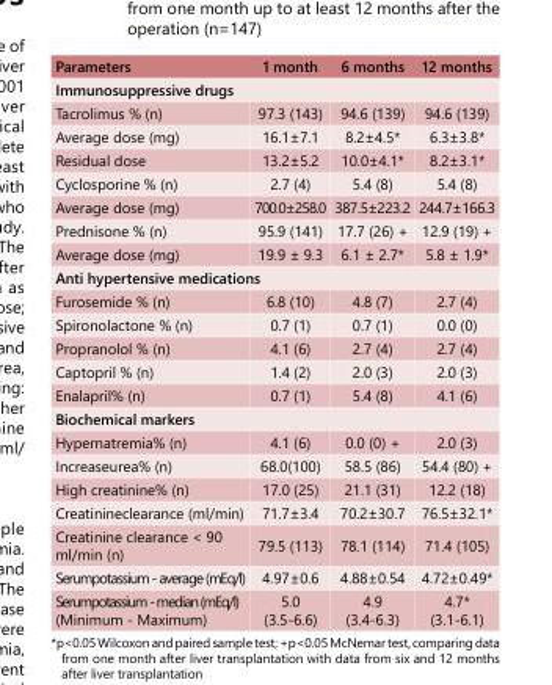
<table><tbody><tr><td>Parameters</td><td>1 month</td><td>6 months</td><td>12 months</td></tr><tr><td colspan="4">Immunosuppressive drugs</td></tr><tr><td>Tacrolimus % (n)</td><td>97.3 (143)</td><td>94.6 (139)</td><td>94.6 (139)</td></tr><tr><td>Average dose (mg)</td><td>16.1±7.1</td><td>8.2±4.5*</td><td>6.3±3.8*</td></tr><tr><td>Residual dose</td><td>13.2±5.2</td><td>10.0±4.1*</td><td>8.2±3.1*</td></tr><tr><td>Cyclosporine % (n)</td><td>2.7 (4)</td><td>5.4 (8)</td><td>5.4 (8)</td></tr><tr><td>Average dose (mg)</td><td>700.0±258.0</td><td>387.5±223.2</td><td>244.7±166.3</td></tr><tr><td>Prednisone % (n)</td><td>95.9 (141)</td><td>17.7 (26) +</td><td>12.9 (19) +</td></tr><tr><td>Average dose (mg)</td><td>19.9 ± 9.3</td><td>6.1 ± 2.7*</td><td>5.8 ± 1.9*</td></tr><tr><td colspan="4">Anti hypertensive medications</td></tr><tr><td>Furosemide % (n)</td><td>6.8 (10)</td><td>4.8 (7)</td><td>2.7 (4)</td></tr><tr><td>Spironolactone % (n)</td><td>0.7 (1)</td><td>0.7 (1)</td><td>0.0 (0)</td></tr><tr><td>Propranolol % (n)</td><td>4.1 (6)</td><td>2.7 (4)</td><td>2.7 (4)</td></tr><tr><td>Captopril % (n)</td><td>1.4 (2)</td><td>2.0 (3)</td><td>2.0 (3)</td></tr><tr><td>Enalapril% (n)</td><td>0.7 (1)</td><td>5.4 (8)</td><td>4.1 (6)</td></tr><tr><td colspan="4">Biochemical markers</td></tr><tr><td>Hypernatremia% (n)</td><td>4.1 (6)</td><td>0.0 (0) +</td><td>2.0 (3)</td></tr><tr><td>Increaseurea% (n)</td><td>68.0(100)</td><td>58.5 (86)</td><td>54.4 (80) +</td></tr><tr><td>High creatinine% (n)</td><td>17.0 (25)</td><td>21.1 (31)</td><td>12.2 (18)</td></tr><tr><td>Creatinineclearance (ml/min)</td><td>71.7±3.4</td><td>70.2±30.7</td><td>76.5±32.1*</td></tr><tr><td>Creatinine clearance &lt; 90 ml/min (n)</td><td>79.5 (113)</td><td>78.1 (114)</td><td>71.4 (105)</td></tr><tr><td>Serumpotassium - average (mEq/l)</td><td>4.97±0.6</td><td>4.88±0.54</td><td>4.72±0.49*</td></tr><tr><td>Serumpotassium - median (mEq/l) (Minimum - Maximum)</td><td>5.0 (3.5-6.6)</td><td>4.9 (3.4-6.3)</td><td>4.7* (3.1-6.1)</td></tr></tbody></table>